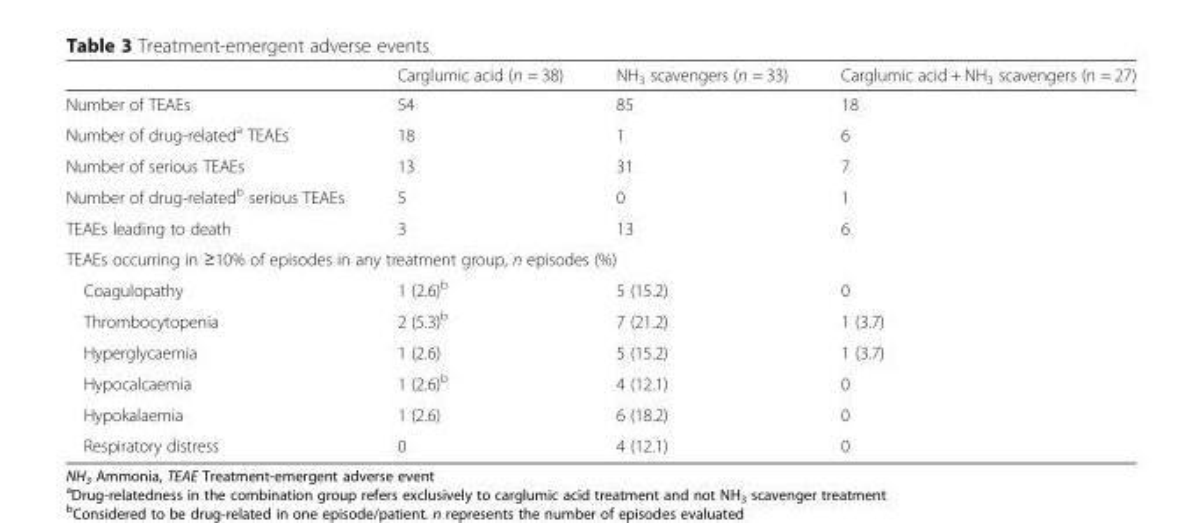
<table><thead><tr><td></td><td>Carglumic acid (n = 38)</td><td>NH<sub>3</sub> scavengers (n = 33)</td><td>Carglumic acid + NH<sub>3</sub> scavengers (n = 27)</td></tr></thead><tbody><tr><td>Number of TEAEs</td><td>54</td><td>85</td><td>18</td></tr><tr><td>Number of drug-related<sup>a</sup> TEAEs</td><td>18</td><td>1</td><td>6</td></tr><tr><td>Number of serious TEAEs</td><td>13</td><td>31</td><td>7</td></tr><tr><td>Number of drug-related<sup>b</sup> serious TEAEs</td><td>5</td><td>0</td><td>1</td></tr><tr><td>TEAEs leading to death</td><td>3</td><td>13</td><td>6</td></tr><tr><td colspan="4">TEAEs occurring in ≥10% of episodes in any treatment group, n episodes (%)</td></tr><tr><td>Coagulopathy</td><td>1 (2.6)<sup>b</sup></td><td>5 (15.2)</td><td>0</td></tr><tr><td>Thrombocytopenia</td><td>2 (5.3)<sup>b</sup></td><td>7 (21.2)</td><td>1 (3.7)</td></tr><tr><td>Hyperglycaemia</td><td>1 (2.6)</td><td>5 (15.2)</td><td>1 (3.7)</td></tr><tr><td>Hypocalcaemia</td><td>1 (2.6)<sup>b</sup></td><td>4 (12.1)</td><td>0</td></tr><tr><td>Hypokalaemia</td><td>1 (2.6)</td><td>6 (18.2)</td><td>0</td></tr><tr><td>Respiratory distress</td><td>0</td><td>4 (12.1)</td><td>0</td></tr></tbody></table>